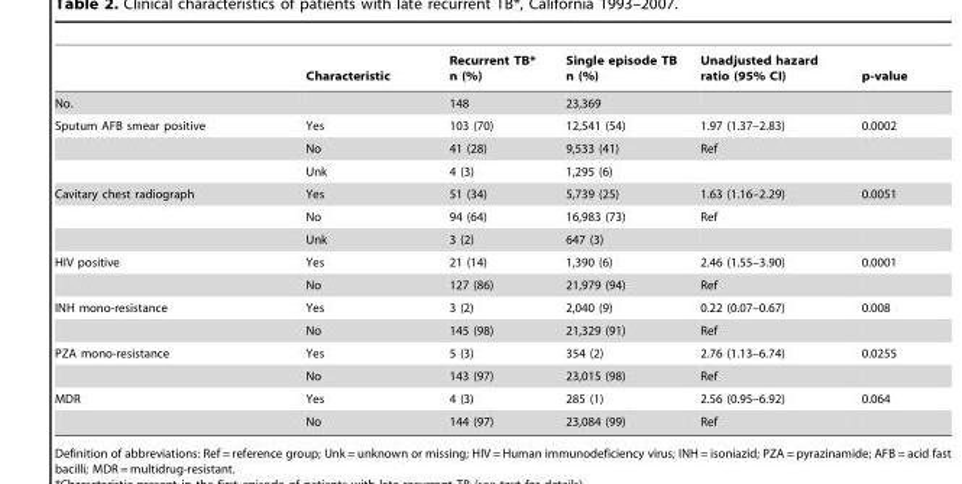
<table><thead><tr><td></td><td>Characteristic</td><td>Recurrent TB* n (%)</td><td>Single episode TB n (%)</td><td>Unadjusted hazard ratio (95% CI)</td><td>p-value</td></tr></thead><tbody><tr><td>No.</td><td></td><td>148</td><td>23,369</td><td></td><td></td></tr><tr><td rowspan="3">Sputum AFB smear positive</td><td>Yes</td><td>103 (70)</td><td>12,541 (54)</td><td>1.97 (1.37–2.83)</td><td>0.0002</td></tr><tr><td>No</td><td>41 (28)</td><td>9,533 (41)</td><td>Ref</td><td></td></tr><tr><td>Unk</td><td>4 (3)</td><td>1,295 (6)</td><td></td><td></td></tr><tr><td rowspan="3">Cavitary chest radiograph</td><td>Yes</td><td>51 (34)</td><td>5,739 (25)</td><td>1.63 (1.16–2.29)</td><td>0.0051</td></tr><tr><td>No</td><td>94 (64)</td><td>16,983 (73)</td><td>Ref</td><td></td></tr><tr><td>Unk</td><td>3 (2)</td><td>647 (3)</td><td></td><td></td></tr><tr><td rowspan="2">HIV positive</td><td>Yes</td><td>21 (14)</td><td>1,390 (6)</td><td>2.46 (1.55–3.90)</td><td>0.0001</td></tr><tr><td>No</td><td>127 (86)</td><td>21,979 (94)</td><td>Ref</td><td></td></tr><tr><td rowspan="2">INH mono-resistance</td><td>Yes</td><td>3 (2)</td><td>2,040 (9)</td><td>0.22 (0.07–0.67)</td><td>0.008</td></tr><tr><td>No</td><td>145 (98)</td><td>21,329 (91)</td><td>Ref</td><td></td></tr><tr><td rowspan="2">PZA mono-resistance</td><td>Yes</td><td>5 (3)</td><td>354 (2)</td><td>2.76 (1.13–6.74)</td><td>0.0255</td></tr><tr><td>No</td><td>143 (97)</td><td>23,015 (98)</td><td>Ref</td><td></td></tr><tr><td rowspan="2">MDR</td><td>Yes</td><td>4 (3)</td><td>285 (1)</td><td>2.56 (0.95–6.92)</td><td>0.064</td></tr><tr><td>No</td><td>144 (97)</td><td>23,084 (99)</td><td>Ref</td><td></td></tr></tbody></table>